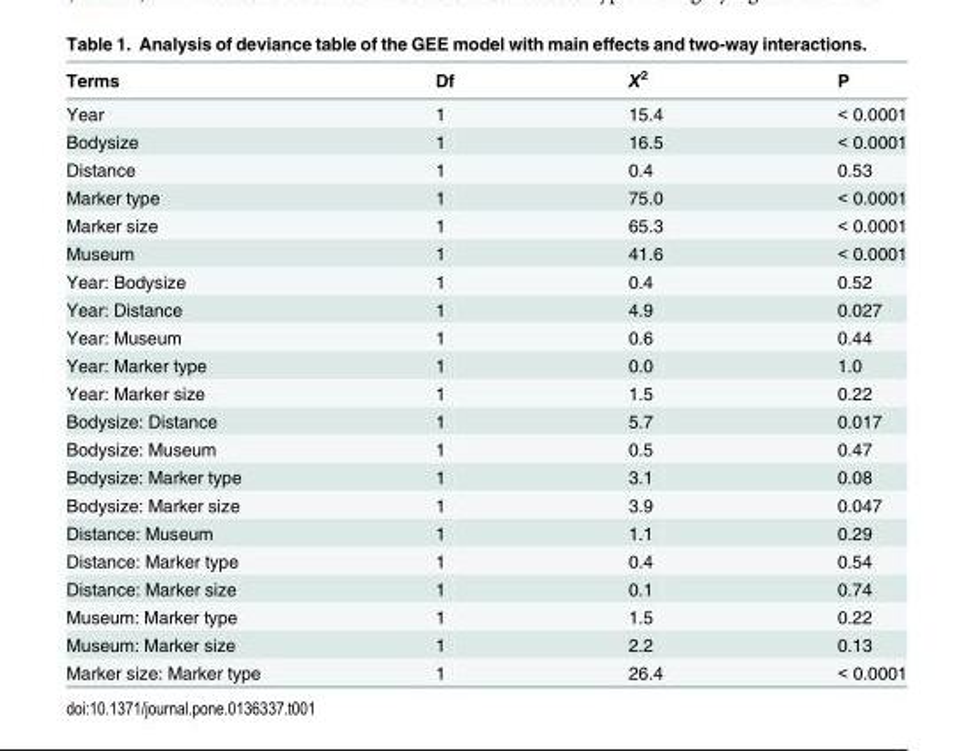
<table><thead><tr><td>Terms</td><td>Df</td><td>X<sup>2</sup></td><td>P</td></tr></thead><tbody><tr><td>Year</td><td>1</td><td>15.4</td><td>&lt; 0.0001</td></tr><tr><td>Bodysize</td><td>1</td><td>16.5</td><td>&lt; 0.0001</td></tr><tr><td>Distance</td><td>1</td><td>0.4</td><td>0.53</td></tr><tr><td>Marker type</td><td>1</td><td>75.0</td><td>&lt; 0.0001</td></tr><tr><td>Marker size</td><td>1</td><td>65.3</td><td>&lt; 0.0001</td></tr><tr><td>Museum</td><td>1</td><td>41.6</td><td>&lt; 0.0001</td></tr><tr><td>Year: Bodysize</td><td>1</td><td>0.4</td><td>0.52</td></tr><tr><td>Year: Distance</td><td>1</td><td>4.9</td><td>0.027</td></tr><tr><td>Year: Museum</td><td>1</td><td>0.6</td><td>0.44</td></tr><tr><td>Year: Marker type</td><td>1</td><td>0.0</td><td>1.0</td></tr><tr><td>Year: Marker size</td><td>1</td><td>1.5</td><td>0.22</td></tr><tr><td>Bodysize: Distance</td><td>1</td><td>5.7</td><td>0.017</td></tr><tr><td>Bodysize: Museum</td><td>1</td><td>0.5</td><td>0.47</td></tr><tr><td>Bodysize: Marker type</td><td>1</td><td>3.1</td><td>0.08</td></tr><tr><td>Bodysize: Marker size</td><td>1</td><td>3.9</td><td>0.047</td></tr><tr><td>Distance: Museum</td><td>1</td><td>1.1</td><td>0.29</td></tr><tr><td>Distance: Marker type</td><td>1</td><td>0.4</td><td>0.54</td></tr><tr><td>Distance: Marker size</td><td>1</td><td>0.1</td><td>0.74</td></tr><tr><td>Museum: Marker type</td><td>1</td><td>1.5</td><td>0.22</td></tr><tr><td>Museum: Marker size</td><td>1</td><td>2.2</td><td>0.13</td></tr><tr><td>Marker size: Marker type</td><td>1</td><td>26.4</td><td>&lt; 0.0001</td></tr></tbody></table>